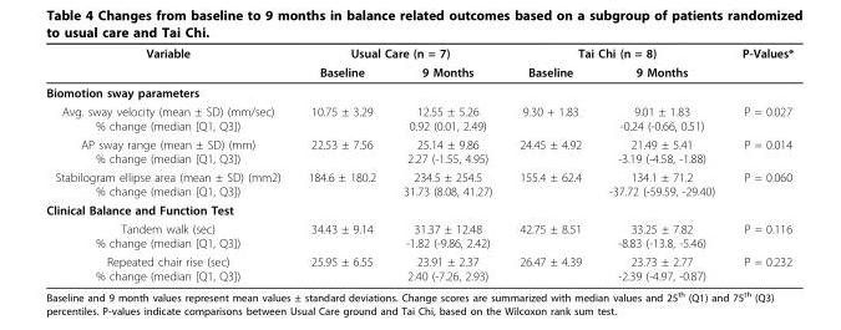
<table><thead><tr><td rowspan="2">Variable</td><td colspan="2">Usual Care (n = 7)</td><td colspan="2">Tai Chi (n = 8)</td><td rowspan="2">P-Values*</td></tr><tr><td>Baseline</td><td>9 Months</td><td>Baseline</td><td>9 Months</td></tr></thead><tbody><tr><td colspan="6">Biomotion sway parameters</td></tr><tr><td>Avg. sway velocity (mean ± SD) (mm/sec) % change (median [Q1, Q3])</td><td>10.75 ± 3.29</td><td>12.55 ± 5.26 0.92 (0.01, 2.49)</td><td>9.30 + 1.83</td><td>9.01 ± 1.83 -0.24 (-0.66, 0.51)</td><td>P = 0.027</td></tr><tr><td>AP sway range (mean ± SD) (mm) % change (median [Q1, Q3])</td><td>22.53 ± 7.56</td><td>25.14 ± 9.86 2.27 (-1.55, 4.95)</td><td>24.45 ± 4.92</td><td>21.49 ± 5.41 -3.19 (-4.58, -1.88)</td><td>P = 0.014</td></tr><tr><td>Stabilogram ellipse area (mean ± SD) (mm2) % change (median [Q1, Q3])</td><td>184.6 ± 180.2</td><td>234.5 ± 254.5 31.73 (8.08, 41.27)</td><td>155.4 ± 62.4</td><td>134.1 ± 71.2 -37.72 (-59.59, -29.40)</td><td>P = 0.060</td></tr><tr><td colspan="6">Clinical Balance and Function Test</td></tr><tr><td>Tandem walk (sec) % change (median [Q1, Q3])</td><td>34.43 ± 9.14</td><td>31.37 ± 12.48 -1.82 (-9.86, 2.42)</td><td>42.75 ± 8.51</td><td>33.25 ± 7.82 -8.83 (-13.8, -5.46)</td><td>P = 0.116</td></tr><tr><td>Repeated chair rise (sec) % change (median [Q1, Q3])</td><td>25.95 ± 6.55</td><td>23.91 ± 2.37 2.40 (-7.26, 2.93)</td><td>26.47 ± 4.39</td><td>23.73 ± 2.77 -2.39 (-4.97, -0.87)</td><td>P = 0.232</td></tr></tbody></table>